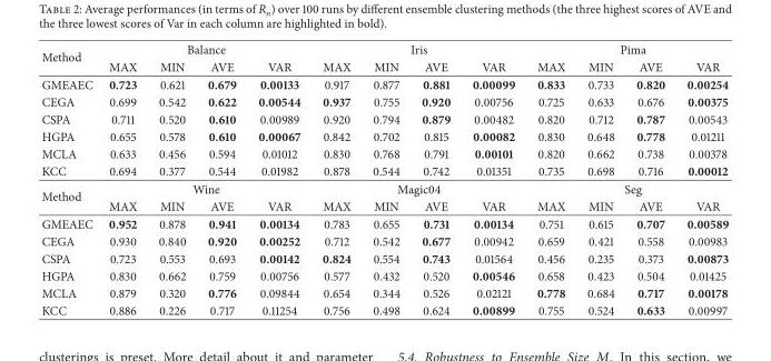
<table><thead><tr><td rowspan="2">Method</td><td colspan="4">Balance</td><td colspan="4">Iris</td><td colspan="4">Pima</td></tr><tr><td>MAX</td><td>MIN</td><td>AVE</td><td>VAR</td><td>MAX</td><td>MIN</td><td>AVE</td><td>VAR</td><td>MAX</td><td>MIN</td><td>AVE</td><td>VAR</td></tr></thead><tbody><tr><td>GMEAEC</td><td>0.723</td><td>0.621</td><td>0.679</td><td>0.00133</td><td>0.917</td><td>0.877</td><td>0.881</td><td>0.00099</td><td>0.833</td><td>0.733</td><td>0.820</td><td>0.00254</td></tr><tr><td>CEGA</td><td>0.699</td><td>0.542</td><td>0.622</td><td>0.00544</td><td>0.937</td><td>0.755</td><td>0.920</td><td>0.00756</td><td>0.725</td><td>0.633</td><td>0.676</td><td>0.00375</td></tr><tr><td>CSPA</td><td>0.711</td><td>0.520</td><td>0.610</td><td>0.00989</td><td>0.920</td><td>0.794</td><td>0.879</td><td>0.00482</td><td>0.820</td><td>0.712</td><td>0.787</td><td>0.00543</td></tr><tr><td>HGPA</td><td>0.655</td><td>0.578</td><td>0.610</td><td>0.00067</td><td>0.842</td><td>0.702</td><td>0.815</td><td>0.00082</td><td>0.830</td><td>0.648</td><td>0.778</td><td>0.01211</td></tr><tr><td>MCLA</td><td>0.633</td><td>0.456</td><td>0.594</td><td>0.01012</td><td>0.830</td><td>0.768</td><td>0.791</td><td>0.00101</td><td>0.820</td><td>0.662</td><td>0.738</td><td>0.00378</td></tr><tr><td>KCC</td><td>0.694</td><td>0.377</td><td>0.544</td><td>0.01982</td><td>0.878</td><td>0.544</td><td>0.742</td><td>0.01351</td><td>0.735</td><td>0.698</td><td>0.716</td><td>0.00012</td></tr><tr><td rowspan="2">Method</td><td colspan="4">Wine</td><td colspan="4">Magic04</td><td colspan="4">Seg</td></tr><tr><td>MAX</td><td>MIN</td><td>AVE</td><td>VAR</td><td>MAX</td><td>MIN</td><td>AVE</td><td>VAR</td><td>MAX</td><td>MIN</td><td>AVE</td><td>VAR</td></tr><tr><td>GMEAEC</td><td>0.952</td><td>0.878</td><td>0.941</td><td>0.00134</td><td>0.783</td><td>0.655</td><td>0.731</td><td>0.00134</td><td>0.751</td><td>0.615</td><td>0.707</td><td>0.00589</td></tr><tr><td>CEGA</td><td>0.930</td><td>0.840</td><td>0.920</td><td>0.00252</td><td>0.712</td><td>0.542</td><td>0.677</td><td>0.00942</td><td>0.659</td><td>0.421</td><td>0.558</td><td>0.00983</td></tr><tr><td>CSPA</td><td>0.723</td><td>0.553</td><td>0.693</td><td>0.00142</td><td>0.824</td><td>0.554</td><td>0.743</td><td>0.01564</td><td>0.456</td><td>0.235</td><td>0.373</td><td>0.00873</td></tr><tr><td>HGPA</td><td>0.830</td><td>0.662</td><td>0.759</td><td>0.00756</td><td>0.577</td><td>0.432</td><td>0.520</td><td>0.00546</td><td>0.658</td><td>0.423</td><td>0.504</td><td>0.01425</td></tr><tr><td>MCLA</td><td>0.879</td><td>0.320</td><td>0.776</td><td>0.09844</td><td>0.654</td><td>0.344</td><td>0.526</td><td>0.02121</td><td>0.778</td><td>0.684</td><td>0.717</td><td>0.00178</td></tr><tr><td>KCC</td><td>0.886</td><td>0.226</td><td>0.717</td><td>0.11254</td><td>0.756</td><td>0.498</td><td>0.624</td><td>0.00899</td><td>0.755</td><td>0.524</td><td>0.633</td><td>0.00997</td></tr></tbody></table>